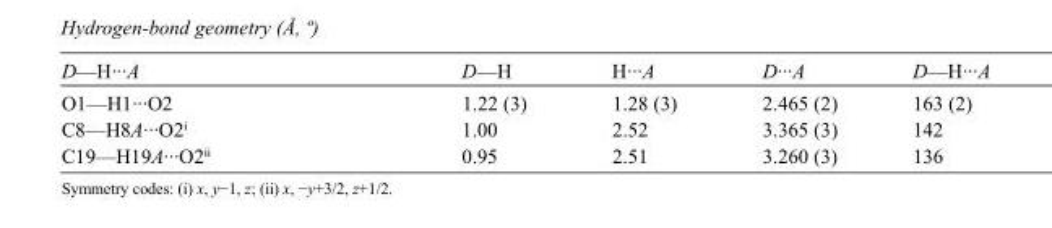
<table><tbody><tr><td>D—H···A</td><td>D—H</td><td>H···A</td><td>D···A</td><td>D—H···A</td></tr><tr><td>O1—H1···O2</td><td>1.22 (3)</td><td>1.28 (3)</td><td>2.465 (2)</td><td>163 (2)</td></tr><tr><td>C8—H8A···O2<sup>i</sup></td><td>1.00</td><td>2.52</td><td>3.365 (3)</td><td>142</td></tr><tr><td>C19—H19A···O2<sup>ii</sup></td><td>0.95</td><td>2.51</td><td>3.260 (3)</td><td>136</td></tr></tbody></table>